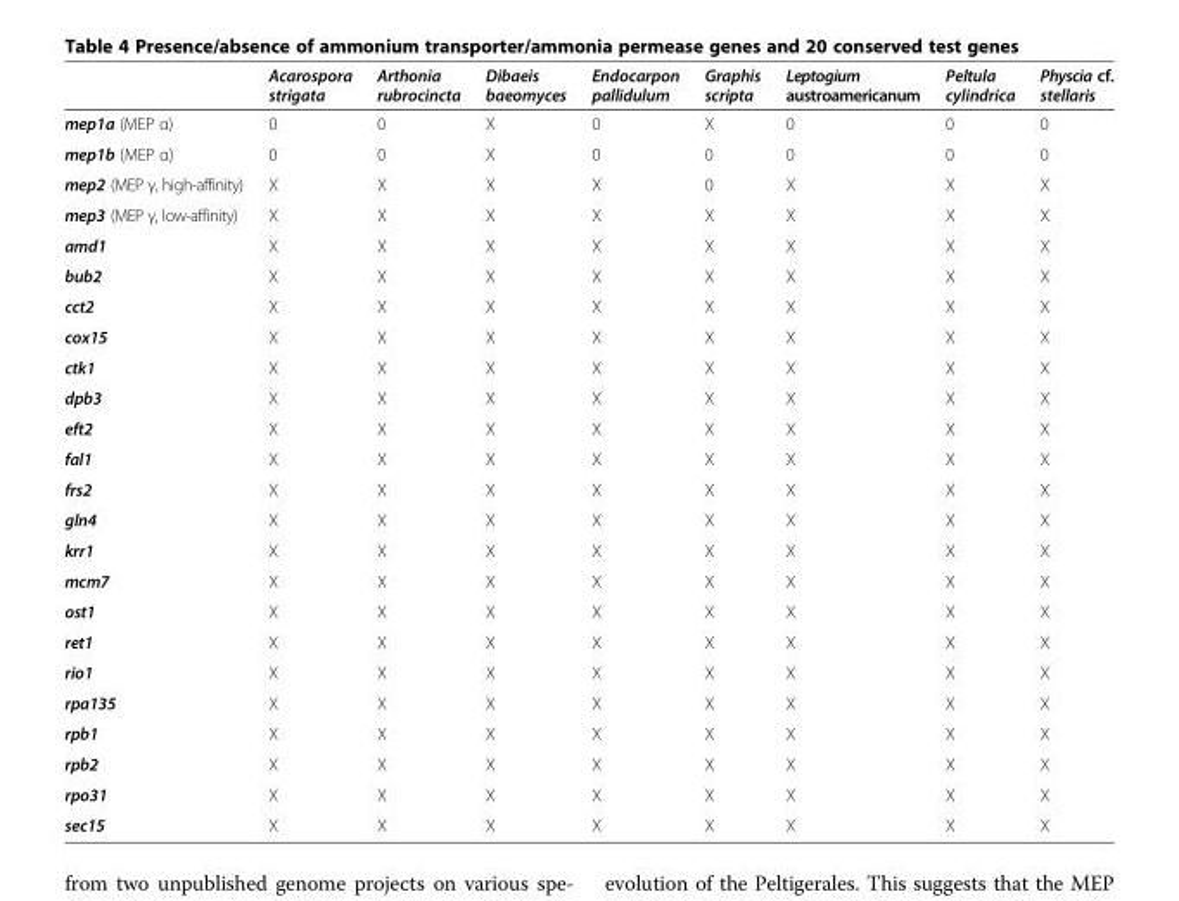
<table><thead><tr><td></td><td>Acarospora strigata</td><td>Arthonia rubrocincta</td><td>Dibaeis baeomyces</td><td>Endocarpon pallidulum</td><td>Graphis scripta</td><td>Leptogium austroamericanum</td><td>Peltula cylindrica</td><td>Physcia cf. stellaris</td></tr></thead><tbody><tr><td>mep1a (MEP α)</td><td>0</td><td>0</td><td>X</td><td>0</td><td>X</td><td>0</td><td>0</td><td>0</td></tr><tr><td>mep1b (MEP α)</td><td>0</td><td>0</td><td>X</td><td>0</td><td>0</td><td>0</td><td>0</td><td>0</td></tr><tr><td>mep2 (MEP γ, high-affinity)</td><td>X</td><td>X</td><td>X</td><td>X</td><td>0</td><td>X</td><td>X</td><td>X</td></tr><tr><td>mep3 (MEP γ, low-affinity)</td><td>X</td><td>X</td><td>X</td><td>X</td><td>X</td><td>X</td><td>X</td><td>X</td></tr><tr><td>amd1</td><td>X</td><td>X</td><td>X</td><td>X</td><td>X</td><td>X</td><td>X</td><td>X</td></tr><tr><td>bub2</td><td>X</td><td>X</td><td>X</td><td>X</td><td>X</td><td>X</td><td>X</td><td>X</td></tr><tr><td>cct2</td><td>X</td><td>X</td><td>X</td><td>X</td><td>X</td><td>X</td><td>X</td><td>X</td></tr><tr><td>cox15</td><td>X</td><td>X</td><td>X</td><td>X</td><td>X</td><td>X</td><td>X</td><td>X</td></tr><tr><td>ctk1</td><td>X</td><td>X</td><td>X</td><td>X</td><td>X</td><td>X</td><td>X</td><td>X</td></tr><tr><td>dpb3</td><td>X</td><td>X</td><td>X</td><td>X</td><td>X</td><td>X</td><td>X</td><td>X</td></tr><tr><td>eft2</td><td>X</td><td>X</td><td>X</td><td>X</td><td>X</td><td>X</td><td>X</td><td>X</td></tr><tr><td>fal1</td><td>X</td><td>X</td><td>X</td><td>X</td><td>X</td><td>X</td><td>X</td><td>X</td></tr><tr><td>frs2</td><td>X</td><td>X</td><td>X</td><td>X</td><td>X</td><td>X</td><td>X</td><td>X</td></tr><tr><td>gln4</td><td>X</td><td>X</td><td>X</td><td>X</td><td>X</td><td>X</td><td>X</td><td>X</td></tr><tr><td>krr1</td><td>X</td><td>X</td><td>X</td><td>X</td><td>X</td><td>X</td><td>X</td><td>X</td></tr><tr><td>mcm7</td><td>X</td><td>X</td><td>X</td><td>X</td><td>X</td><td>X</td><td>X</td><td>X</td></tr><tr><td>ost1</td><td>X</td><td>X</td><td>X</td><td>X</td><td>X</td><td>X</td><td>X</td><td>X</td></tr><tr><td>ret1</td><td>X</td><td>X</td><td>X</td><td>X</td><td>X</td><td>X</td><td>X</td><td>X</td></tr><tr><td>rio1</td><td>X</td><td>X</td><td>X</td><td>X</td><td>X</td><td>X</td><td>X</td><td>X</td></tr><tr><td>rpa135</td><td>X</td><td>X</td><td>X</td><td>X</td><td>X</td><td>X</td><td>X</td><td>X</td></tr><tr><td>rpb1</td><td>X</td><td>X</td><td>X</td><td>X</td><td>X</td><td>X</td><td>X</td><td>X</td></tr><tr><td>rpb2</td><td>X</td><td>X</td><td>X</td><td>X</td><td>X</td><td>X</td><td>X</td><td>X</td></tr><tr><td>rpo31</td><td>X</td><td>X</td><td>X</td><td>X</td><td>X</td><td>X</td><td>X</td><td>X</td></tr><tr><td>sec15</td><td>X</td><td>X</td><td>X</td><td>X</td><td>X</td><td>X</td><td>X</td><td>X</td></tr></tbody></table>